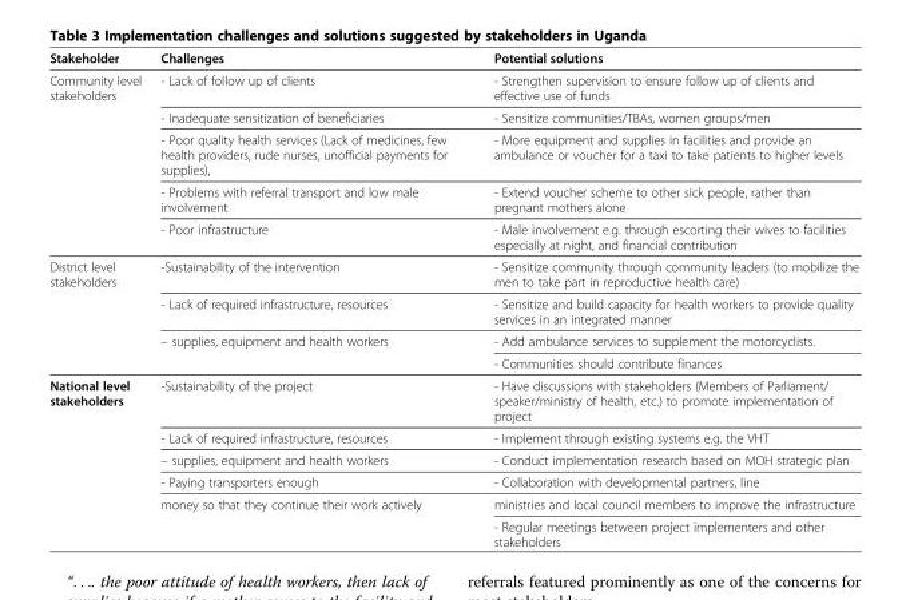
<table><thead><tr><td>Stakeholder</td><td>Challenges</td><td>Potential solutions</td></tr></thead><tbody><tr><td rowspan="5">Community level stakeholders</td><td>- Lack of follow up of clients</td><td>- Strengthen supervision to ensure follow up of clients and effective use of funds</td></tr><tr><td>- Inadequate sensitization of beneficiaries</td><td>- Sensitize communities/TBAs, women groups/men</td></tr><tr><td>- Poor quality health services (Lack of medicines, few health providers, rude nurses, unofficial payments for supplies),</td><td>- More equipment and supplies in facilities and provide an ambulance or voucher for a taxi to take patients to higher levels</td></tr><tr><td>- Problems with referral transport and low male involvement</td><td>- Extend voucher scheme to other sick people, rather than pregnant mothers alone</td></tr><tr><td>- Poor infrastructure</td><td>- Male involvement e.g. through escorting their wives to facilities especially at night, and financial contribution</td></tr><tr><td rowspan="4">District level stakeholders</td><td>-Sustainability of the intervention</td><td>- Sensitize community through community leaders (to mobilize the men to take part in reproductive health care)</td></tr><tr><td>- Lack of required infrastructure, resources</td><td>- Sensitize and build capacity for health workers to provide quality services in an integrated manner</td></tr><tr><td rowspan="2">– supplies, equipment and health workers</td><td>- Add ambulance services to supplement the motorcyclists.</td></tr><tr><td>- Communities should contribute finances</td></tr><tr><td rowspan="6">National level stakeholders</td><td>-Sustainability of the project</td><td>- Have discussions with stakeholders (Members of Parliament/ speaker/ministry of health, etc.) to promote implementation of project</td></tr><tr><td>- Lack of required infrastructure, resources</td><td>- Implement through existing systems e.g. the VHT</td></tr><tr><td>– supplies, equipment and health workers</td><td>- Conduct implementation research based on MOH strategic plan</td></tr><tr><td>- Paying transporters enough</td><td>- Collaboration with developmental partners, line</td></tr><tr><td rowspan="2">money so that they continue their work actively</td><td>ministries and local council members to improve the infrastructure</td></tr><tr><td>- Regular meetings between project implementers and other stakeholders</td></tr></tbody></table>